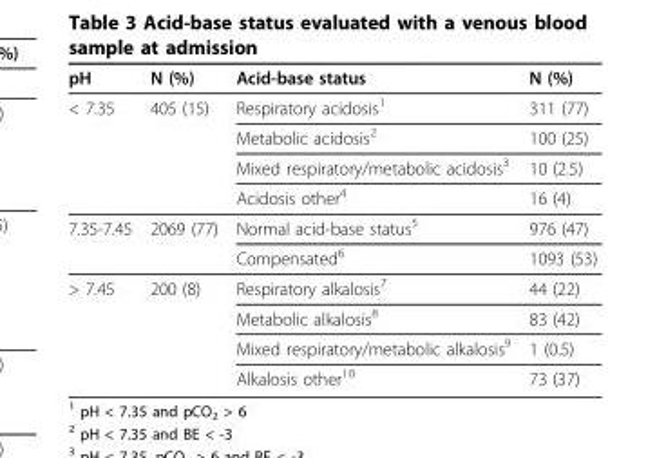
<table><thead><tr><td>pH</td><td>N (%)</td><td>Acid-base status</td><td>N (%)</td></tr></thead><tbody><tr><td rowspan="4">&lt; 7.35</td><td>405 (15)</td><td>Respiratory acidosis<sup>1</sup></td><td>311 (77)</td></tr><tr><td></td><td>Metabolic acidosis<sup>2</sup></td><td>100 (25)</td></tr><tr><td></td><td>Mixed respiratory/metabolic acidosis<sup>3</sup></td><td>10 (2.5)</td></tr><tr><td></td><td>Acidosis other<sup>4</sup></td><td>16 (4)</td></tr><tr><td rowspan="2">7.35-7.45</td><td>2069 (77)</td><td>Normal acid-base status<sup>5</sup></td><td>976 (47)</td></tr><tr><td></td><td>Compensated<sup>6</sup></td><td>1093 (53)</td></tr><tr><td rowspan="4">&gt; 7.45</td><td>200 (8)</td><td>Respiratory alkalosis<sup>7</sup></td><td>44 (22)</td></tr><tr><td></td><td>Metabolic alkalosis<sup>8</sup></td><td>83 (42)</td></tr><tr><td></td><td>Mixed respiratory/metabolic alkalosis<sup>9</sup></td><td>1 (0.5)</td></tr><tr><td></td><td>Alkalosis other<sup>10</sup></td><td>73 (37)</td></tr></tbody></table>